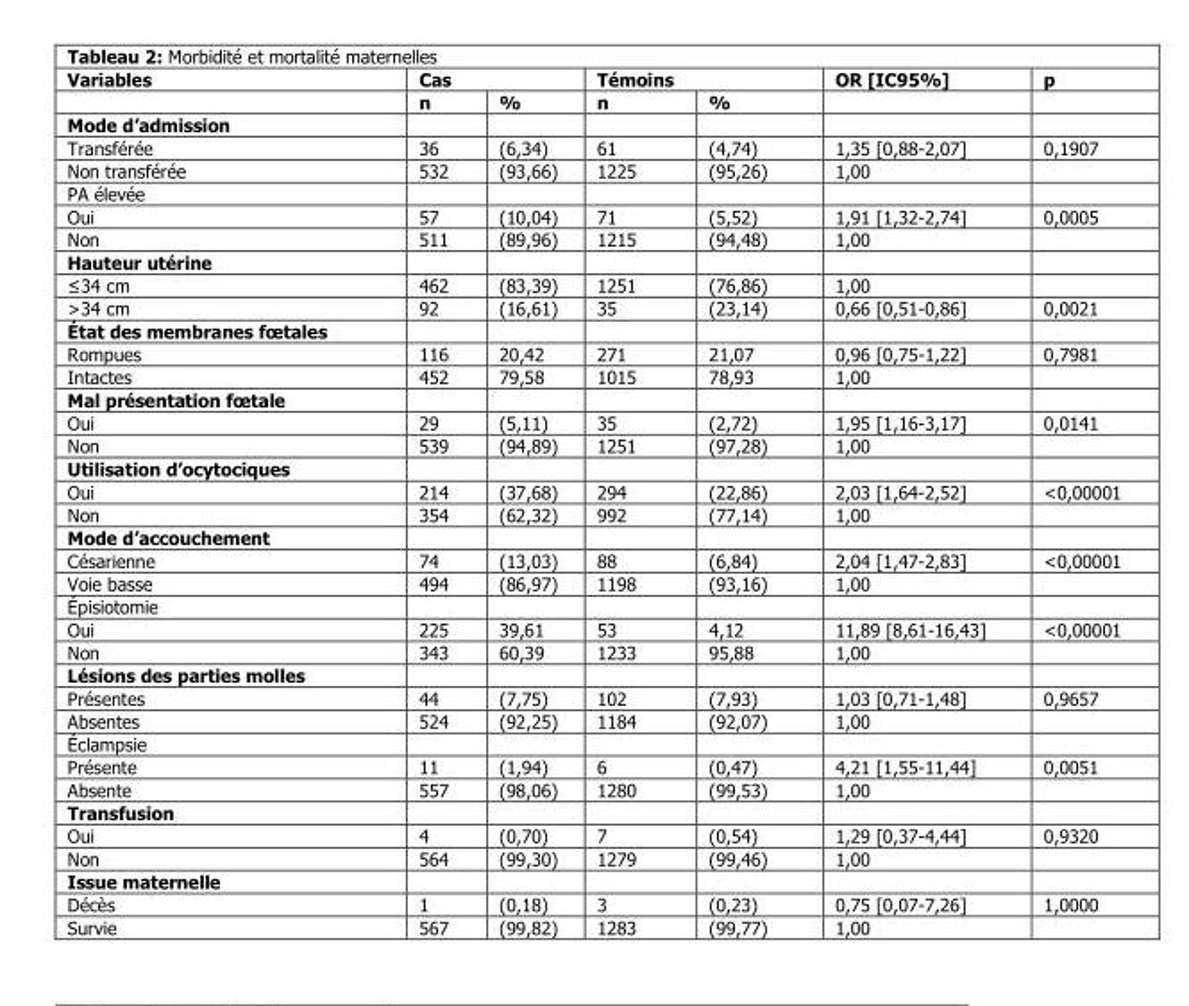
<table><thead><tr><td rowspan="2">Variables</td><td colspan="2">Cas</td><td colspan="2">Témoins</td><td rowspan="2">OR [IC95%]</td><td rowspan="2">p</td></tr><tr><td>n</td><td>%</td><td>n</td><td>%</td></tr></thead><tbody><tr><td colspan="7">Mode d’admission</td></tr><tr><td>Transférée</td><td>36</td><td>(6,34)</td><td>61</td><td>(4,74)</td><td>1,35 [0,88-2,07]</td><td>0,1907</td></tr><tr><td>Non transférée</td><td>532</td><td>(93,66)</td><td>1225</td><td>(95,26)</td><td>1,00</td><td></td></tr><tr><td colspan="7">PA élevée</td></tr><tr><td>Oui</td><td>57</td><td>(10,04)</td><td>71</td><td>(5,52)</td><td>1,91 [1,32-2,74]</td><td>0,0005</td></tr><tr><td>Non</td><td>511</td><td>(89,96)</td><td>1215</td><td>(94,48)</td><td>1,00</td><td></td></tr><tr><td colspan="7">Hauteur utérine</td></tr><tr><td>≤34 cm</td><td>462</td><td>(83,39)</td><td>1251</td><td>(76,86)</td><td>1,00</td><td></td></tr><tr><td>&gt;34 cm</td><td>92</td><td>(16,61)</td><td>35</td><td>(23,14)</td><td>0,66 [0,51-0,86]</td><td>0,0021</td></tr><tr><td colspan="7">État des membranes fœtales</td></tr><tr><td>Rompues</td><td>116</td><td>20,42</td><td>271</td><td>21,07</td><td>0,96 [0,75-1,22]</td><td>0,7981</td></tr><tr><td>Intactes</td><td>452</td><td>79,58</td><td>1015</td><td>78,93</td><td>1,00</td><td></td></tr><tr><td colspan="7">Mal présentation fœtale</td></tr><tr><td>Oui</td><td>29</td><td>(5,11)</td><td>35</td><td>(2,72)</td><td>1,95 [1,16-3,17]</td><td>0,0141</td></tr><tr><td>Non</td><td>539</td><td>(94,89)</td><td>1251</td><td>(97,28)</td><td>1,00</td><td></td></tr><tr><td colspan="7">Utilisation d’ocytociques</td></tr><tr><td>Oui</td><td>214</td><td>(37,68)</td><td>294</td><td>(22,86)</td><td>2,03 [1,64-2,52]</td><td>&lt;0,00001</td></tr><tr><td>Non</td><td>354</td><td>(62,32)</td><td>992</td><td>(77,14)</td><td>1,00</td><td></td></tr><tr><td colspan="7">Mode d’accouchement</td></tr><tr><td>Césarienne</td><td>74</td><td>(13,03)</td><td>88</td><td>(6,84)</td><td>2,04 [1,47-2,83]</td><td>&lt;0,00001</td></tr><tr><td>Voie basse</td><td>494</td><td>(86,97)</td><td>1198</td><td>(93,16)</td><td>1,00</td><td></td></tr><tr><td colspan="7">Épisiotomie</td></tr><tr><td>Oui</td><td>225</td><td>39,61</td><td>53</td><td>4,12</td><td>11,89 [8,61-16,43]</td><td>&lt;0,00001</td></tr><tr><td>Non</td><td>343</td><td>60,39</td><td>1233</td><td>95,88</td><td>1,00</td><td></td></tr><tr><td colspan="7">Lésions des parties molles</td></tr><tr><td>Présentes</td><td>44</td><td>(7,75)</td><td>102</td><td>(7,93)</td><td>1,03 [0,71-1,48]</td><td>0,9657</td></tr><tr><td>Absentes</td><td>524</td><td>(92,25)</td><td>1184</td><td>(92,07)</td><td>1,00</td><td></td></tr><tr><td colspan="7">Éclampsie</td></tr><tr><td>Présente</td><td>11</td><td>(1,94)</td><td>6</td><td>(0,47)</td><td>4,21 [1,55-11,44]</td><td>0,0051</td></tr><tr><td>Absente</td><td>557</td><td>(98,06)</td><td>1280</td><td>(99,53)</td><td>1,00</td><td></td></tr><tr><td colspan="7">Transfusion</td></tr><tr><td>Oui</td><td>4</td><td>(0,70)</td><td>7</td><td>(0,54)</td><td>1,29 [0,37-4,44]</td><td>0,9320</td></tr><tr><td>Non</td><td>564</td><td>(99,30)</td><td>1279</td><td>(99,46)</td><td>1,00</td><td></td></tr><tr><td colspan="7">Issue maternelle</td></tr><tr><td>Décès</td><td>1</td><td>(0,18)</td><td>3</td><td>(0,23)</td><td>0,75 [0,07-7,26]</td><td>1,0000</td></tr><tr><td>Survie</td><td>567</td><td>(99,82)</td><td>1283</td><td>(99,77)</td><td>1,00</td><td></td></tr></tbody></table>